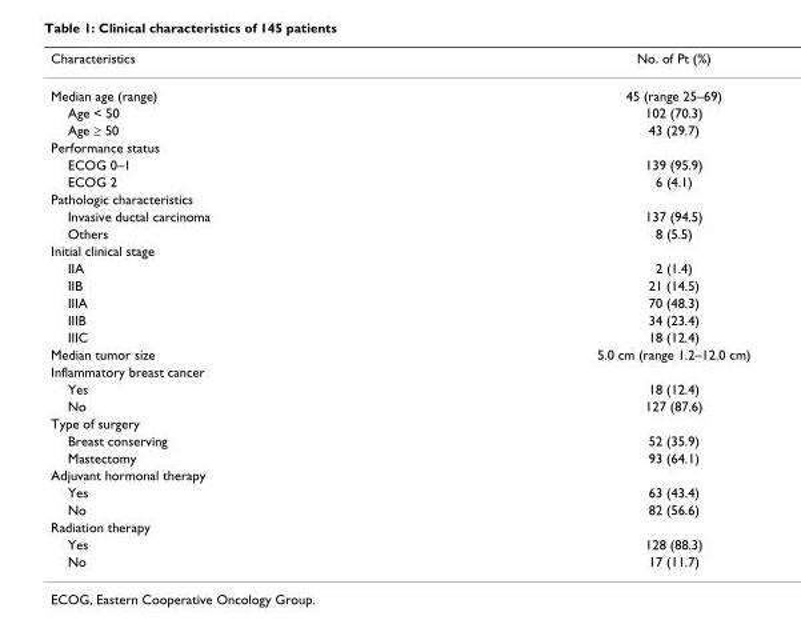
<table><thead><tr><td>Characteristics</td><td>No. of Pt (%)</td></tr></thead><tbody><tr><td>Median age (range)</td><td>45 (range 25–69)</td></tr><tr><td>Age &lt; 50</td><td>102 (70.3)</td></tr><tr><td>Age ≥ 50</td><td>43 (29.7)</td></tr><tr><td colspan="2">Performance status</td></tr><tr><td>ECOG 0–1</td><td>139 (95.9)</td></tr><tr><td>ECOG 2</td><td>6 (4.1)</td></tr><tr><td colspan="2">Pathologic characteristics</td></tr><tr><td>Invasive ductal carcinoma</td><td>137 (94.5)</td></tr><tr><td>Others</td><td>8 (5.5)</td></tr><tr><td colspan="2">Initial clinical stage</td></tr><tr><td>IIA</td><td>2 (1.4)</td></tr><tr><td>IIB</td><td>21 (14.5)</td></tr><tr><td>IIIA</td><td>70 (48.3)</td></tr><tr><td>IIIB</td><td>34 (23.4)</td></tr><tr><td>IIIC</td><td>18 (12.4)</td></tr><tr><td>Median tumor size</td><td>5.0 cm (range 1.2–12.0 cm)</td></tr><tr><td colspan="2">Inflammatory breast cancer</td></tr><tr><td>Yes</td><td>18 (12.4)</td></tr><tr><td>No</td><td>127 (87.6)</td></tr><tr><td colspan="2">Type of surgery</td></tr><tr><td>Breast conserving</td><td>52 (35.9)</td></tr><tr><td>Mastectomy</td><td>93 (64.1)</td></tr><tr><td colspan="2">Adjuvant hormonal therapy</td></tr><tr><td>Yes</td><td>63 (43.4)</td></tr><tr><td>No</td><td>82 (56.6)</td></tr><tr><td colspan="2">Radiation therapy</td></tr><tr><td>Yes</td><td>128 (88.3)</td></tr><tr><td>No</td><td>17 (11.7)</td></tr></tbody></table>